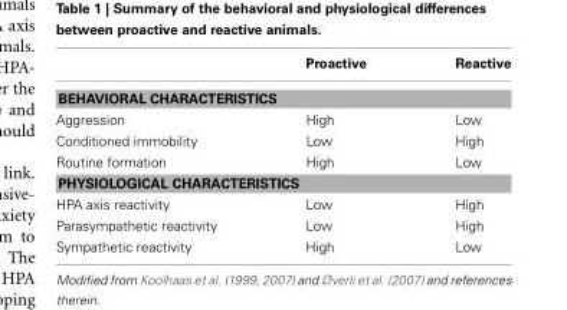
<table><thead><tr><td></td><td>Proactive</td><td>Reactive</td></tr></thead><tbody><tr><td colspan="3">BEHAVIORAL CHARACTERISTICS</td></tr><tr><td>Aggression</td><td>High</td><td>Low</td></tr><tr><td>Conditioned immobility</td><td>Low</td><td>High</td></tr><tr><td>Routine formation</td><td>High</td><td>Low</td></tr><tr><td colspan="3">PHYSIOLOGICAL CHARACTERISTICS</td></tr><tr><td>HPA axis reactivity</td><td>Low</td><td>High</td></tr><tr><td>Parasympathetic reactivity</td><td>Low</td><td>High</td></tr><tr><td>Sympathetic reactivity</td><td>High</td><td>Low</td></tr></tbody></table>